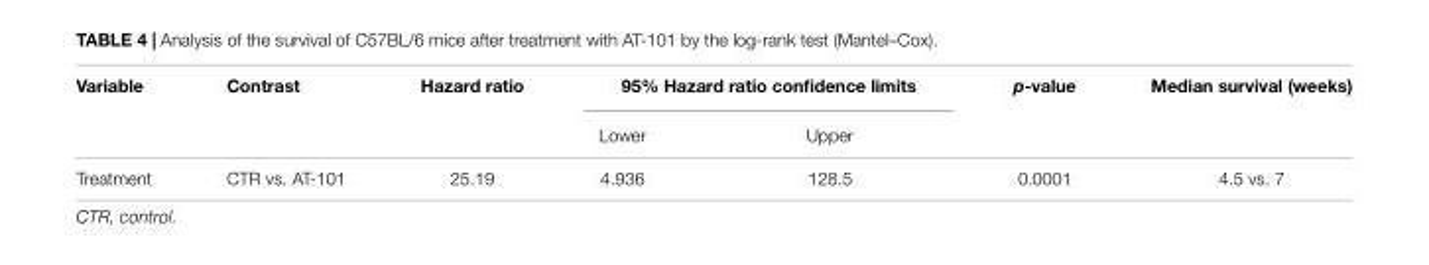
<table><thead><tr><td rowspan="2">Variable</td><td rowspan="2">Contrast</td><td rowspan="2">Hazard ratio</td><td colspan="2">95% Hazard ratio confidence limits</td><td rowspan="2">p-value</td><td rowspan="2">Median survival (weeks)</td></tr><tr><td>Lower</td><td>Upper</td></tr></thead><tbody><tr><td>Treatment</td><td>CTR vs. AT-101</td><td>25.19</td><td>4.936</td><td>128.5</td><td>0.0001</td><td>4.5 vs. 7</td></tr></tbody></table>